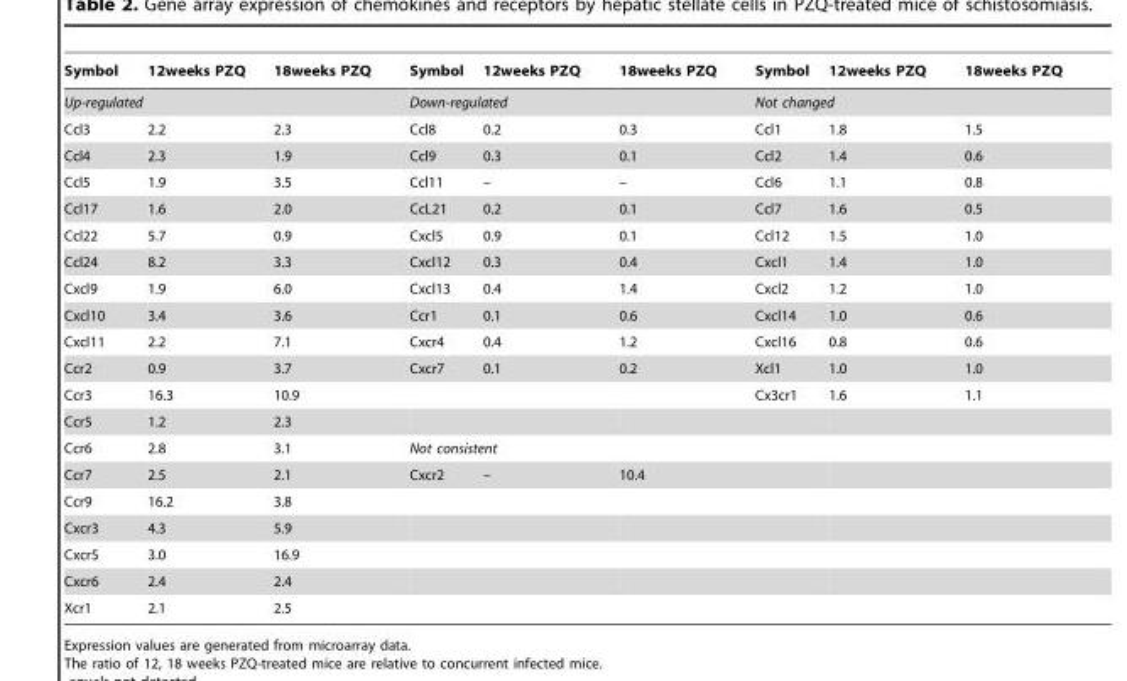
<table><thead><tr><td>Symbol</td><td>12weeks PZQ</td><td>18weeks PZQ</td><td>Symbol</td><td>12weeks PZQ</td><td>18weeks PZQ</td><td>Symbol</td><td>12weeks PZQ</td><td>18weeks PZQ</td></tr></thead><tbody><tr><td colspan="3">Up-regulated</td><td colspan="3">Down-regulated</td><td colspan="3">Not changed</td></tr><tr><td>Ccl3</td><td>2.2</td><td>2.3</td><td>Ccl8</td><td>0.2</td><td>0.3</td><td>Ccl1</td><td>1.8</td><td>1.5</td></tr><tr><td>Ccl4</td><td>2.3</td><td>1.9</td><td>Ccl9</td><td>0.3</td><td>0.1</td><td>Ccl2</td><td>1.4</td><td>0.6</td></tr><tr><td>Ccl5</td><td>1.9</td><td>3.5</td><td>Ccl11</td><td>–</td><td>–</td><td>Ccl6</td><td>1.1</td><td>0.8</td></tr><tr><td>Ccl17</td><td>1.6</td><td>2.0</td><td>CcL21</td><td>0.2</td><td>0.1</td><td>Ccl7</td><td>1.6</td><td>0.5</td></tr><tr><td>Ccl22</td><td>5.7</td><td>0.9</td><td>Cxcl5</td><td>0.9</td><td>0.1</td><td>Ccl12</td><td>1.5</td><td>1.0</td></tr><tr><td>Ccl24</td><td>8.2</td><td>3.3</td><td>Cxcl12</td><td>0.3</td><td>0.4</td><td>Cxcl1</td><td>1.4</td><td>1.0</td></tr><tr><td>Cxcl9</td><td>1.9</td><td>6.0</td><td>Cxcl13</td><td>0.4</td><td>1.4</td><td>Cxcl2</td><td>1.2</td><td>1.0</td></tr><tr><td>Cxcl10</td><td>3.4</td><td>3.6</td><td>Ccr1</td><td>0.1</td><td>0.6</td><td>Cxcl14</td><td>1.0</td><td>0.6</td></tr><tr><td>Cxcl11</td><td>2.2</td><td>7.1</td><td>Cxcr4</td><td>0.4</td><td>1.2</td><td>Cxcl16</td><td>0.8</td><td>0.6</td></tr><tr><td>Ccr2</td><td>0.9</td><td>3.7</td><td>Cxcr7</td><td>0.1</td><td>0.2</td><td>Xcl1</td><td>1.0</td><td>1.0</td></tr><tr><td>Ccr3</td><td>16.3</td><td>10.9</td><td></td><td></td><td></td><td>Cx3cr1</td><td>1.6</td><td>1.1</td></tr><tr><td>Ccr5</td><td>1.2</td><td>2.3</td><td></td><td></td><td></td><td></td><td></td><td></td></tr><tr><td>Ccr6</td><td>2.8</td><td>3.1</td><td colspan="2">Not consistent</td><td></td><td></td><td></td><td></td></tr><tr><td>Ccr7</td><td>2.5</td><td>2.1</td><td>Cxcr2</td><td>–</td><td>10.4</td><td></td><td></td><td></td></tr><tr><td>Ccr9</td><td>16.2</td><td>3.8</td><td></td><td></td><td></td><td></td><td></td><td></td></tr><tr><td>Cxcr3</td><td>4.3</td><td>5.9</td><td></td><td></td><td></td><td></td><td></td><td></td></tr><tr><td>Cxcr5</td><td>3.0</td><td>16.9</td><td></td><td></td><td></td><td></td><td></td><td></td></tr><tr><td>Cxcr6</td><td>2.4</td><td>2.4</td><td></td><td></td><td></td><td></td><td></td><td></td></tr><tr><td>Xcr1</td><td>2.1</td><td>2.5</td><td></td><td></td><td></td><td></td><td></td><td></td></tr></tbody></table>